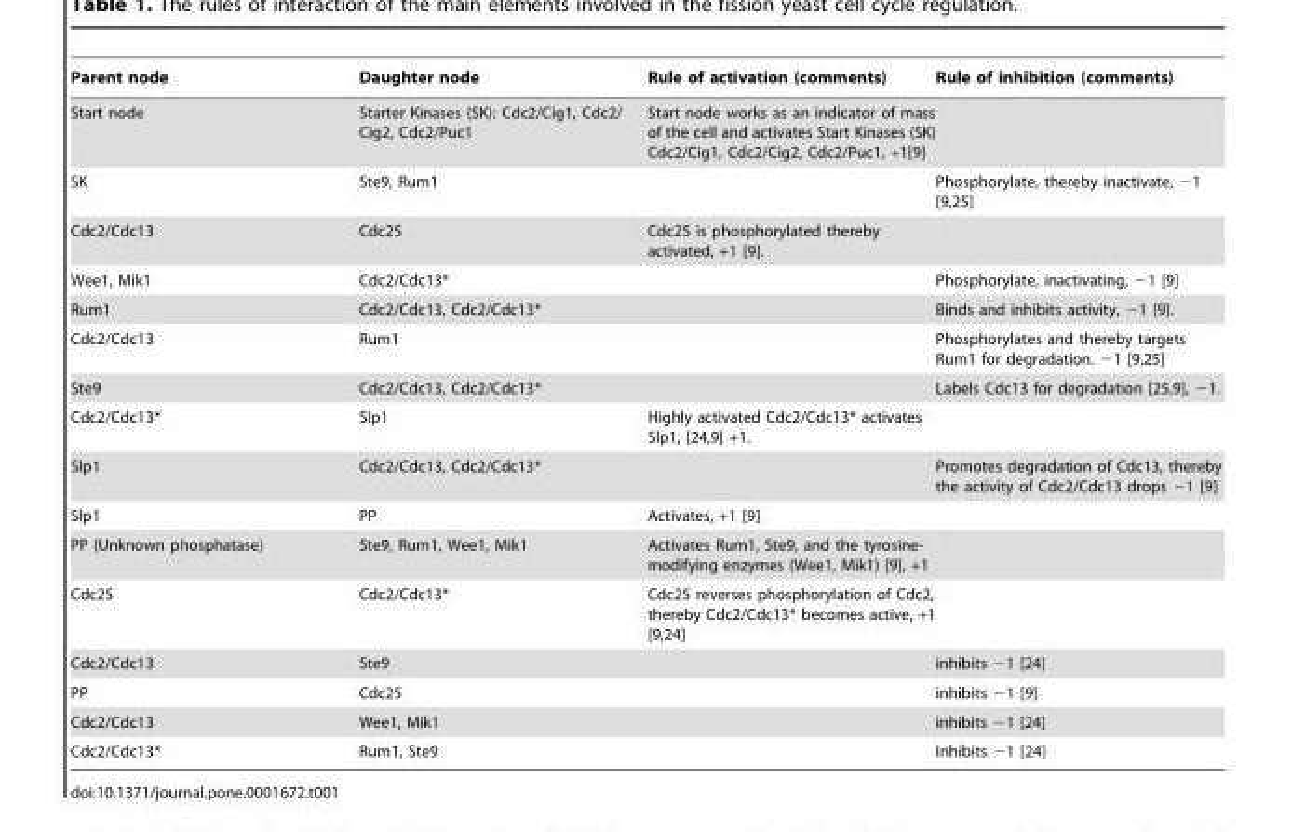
<table><thead><tr><td>Parent node</td><td>Daughter node</td><td>Rule of activation (comments)</td><td>Rule of inhibition (comments)</td></tr></thead><tbody><tr><td>Start node</td><td>Starter Kinases (SK): Cdc2/Cig1, Cdc2/ Cig2, Cdc2/Puc1</td><td>Start node works as an indicator of mass of the cell and activates Start Kinases (SK) Cdc2/Cig1, Cdc2/Cig2, Cdc2/Puc1, +1[9]</td><td></td></tr><tr><td>SK</td><td>Ste9, Rum1</td><td></td><td>Phosphorylate, thereby inactivate, 21 [9,25]</td></tr><tr><td>Cdc2/Cdc13</td><td>Cdc25</td><td>Cdc25 is phosphorylated thereby activated, +1 [9].</td><td></td></tr><tr><td>Wee1, Mik1</td><td>Cdc2/Cdc13*</td><td></td><td>Phosphorylate, inactivating, −1 [9]</td></tr><tr><td>Rum1</td><td>Cdc2/Cdc13, Cdc2/Cdc13*</td><td></td><td>Binds and inhibits activity, −1 [9].</td></tr><tr><td>Cdc2/Cdc13</td><td>Rum1</td><td></td><td>Phosphorylates and thereby targets Rum1 for degradation. 21 [9,25]</td></tr><tr><td>Ste9</td><td>Cdc2/Cdc13, Cdc2/Cdc13*</td><td></td><td>Labels Cdc13 for degradation [25,9], 21.</td></tr><tr><td>Cdc2/Cdc13*</td><td>Slp1</td><td>Highly activated Cdc2/Cdc13* activates Slp1, [24,9] +1.</td><td></td></tr><tr><td>Slp1</td><td>Cdc2/Cdc13, Cdc2/Cdc13*</td><td></td><td>Promotes degradation of Cdc13, thereby the activity of Cdc2/Cdc13 drops −1 [9]</td></tr><tr><td>Slp1</td><td>PP</td><td>Activates, +1 [9]</td><td></td></tr><tr><td>PP (Unknown phosphatase)</td><td>Ste9, Rum1, Wee1, Mik1</td><td>Activates Rum1, Ste9, and the tyrosine- modifying enzymes (Wee1, Mik1) [9], +1</td><td></td></tr><tr><td>Cdc25</td><td>Cdc2/Cdc13*</td><td>Cdc25 reverses phosphorylation of Cdc2, thereby Cdc2/Cdc13* becomes active, +1 [9,24]</td><td></td></tr><tr><td>Cdc2/Cdc13</td><td>Ste9</td><td></td><td>inhibits −1 [24]</td></tr><tr><td>PP</td><td>Cdc25</td><td></td><td>inhibits −1 [9]</td></tr><tr><td>Cdc2/Cdc13</td><td>Wee1, Mik1</td><td></td><td>inhibits −1 [24]</td></tr><tr><td>Cdc2/Cdc13*</td><td>Rum1, Ste9</td><td></td><td>Inhibits −1 [24]</td></tr></tbody></table>